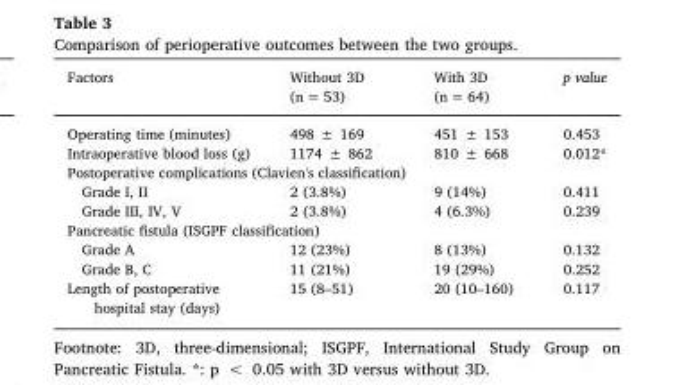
<table><thead><tr><td>Factors</td><td>Without 3D (n = 53)</td><td>With 3D (n = 64)</td><td>p value</td></tr></thead><tbody><tr><td>Operating time (minutes)</td><td>498 ± 169</td><td>451 ± 153</td><td>0.453</td></tr><tr><td>Intraoperative blood loss (g)</td><td>1174 ± 862</td><td>810 ± 668</td><td>0.012*</td></tr><tr><td colspan="4">Postoperative complications (Clavien&#x27;s classification)</td></tr><tr><td>Grade I, II</td><td>2 (3.8%)</td><td>9 (14%)</td><td>0.411</td></tr><tr><td>Grade III, IV, V</td><td>2 (3.8%)</td><td>4 (6.3%)</td><td>0.239</td></tr><tr><td colspan="4">Pancreatic fistula (ISGPF classification)</td></tr><tr><td>Grade A</td><td>12 (23%)</td><td>8 (13%)</td><td>0.132</td></tr><tr><td>Grade B, C</td><td>11 (21%)</td><td>19 (29%)</td><td>0.252</td></tr><tr><td>Length of postoperative hospital stay (days)</td><td>15 (8–51)</td><td>20 (10–160)</td><td>0.117</td></tr></tbody></table>